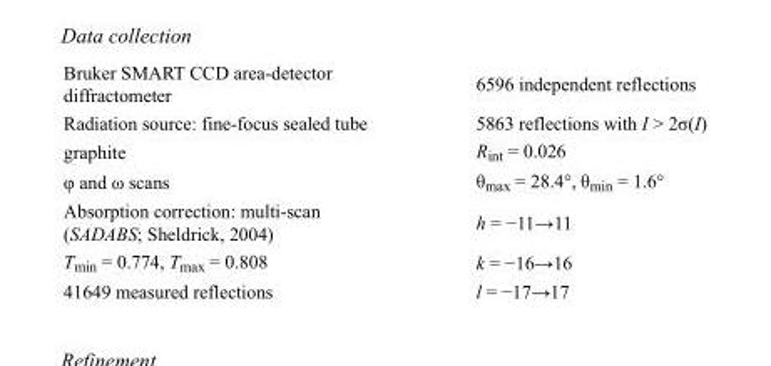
<table><tbody><tr><td>Bruker SMART CCD area-detector diffractometer</td><td>6596 independent reflections</td></tr><tr><td>Radiation source: fine-focus sealed tube</td><td>5863 reflections with I &gt; 2σ(I)</td></tr><tr><td>graphite</td><td>R<sub>int</sub> = 0.026</td></tr><tr><td>φ and ω scans</td><td>θ<sub>max</sub> = 28.4°, θ<sub>min</sub> = 1.6°</td></tr><tr><td>Absorption correction: multi-scan (SADABS; Sheldrick, 2004)</td><td>h = −11→11</td></tr><tr><td>T<sub>min</sub> = 0.774, T<sub>max</sub> = 0.808</td><td>k = −16→16</td></tr><tr><td>41649 measured reflections</td><td>l = −17→17</td></tr></tbody></table>